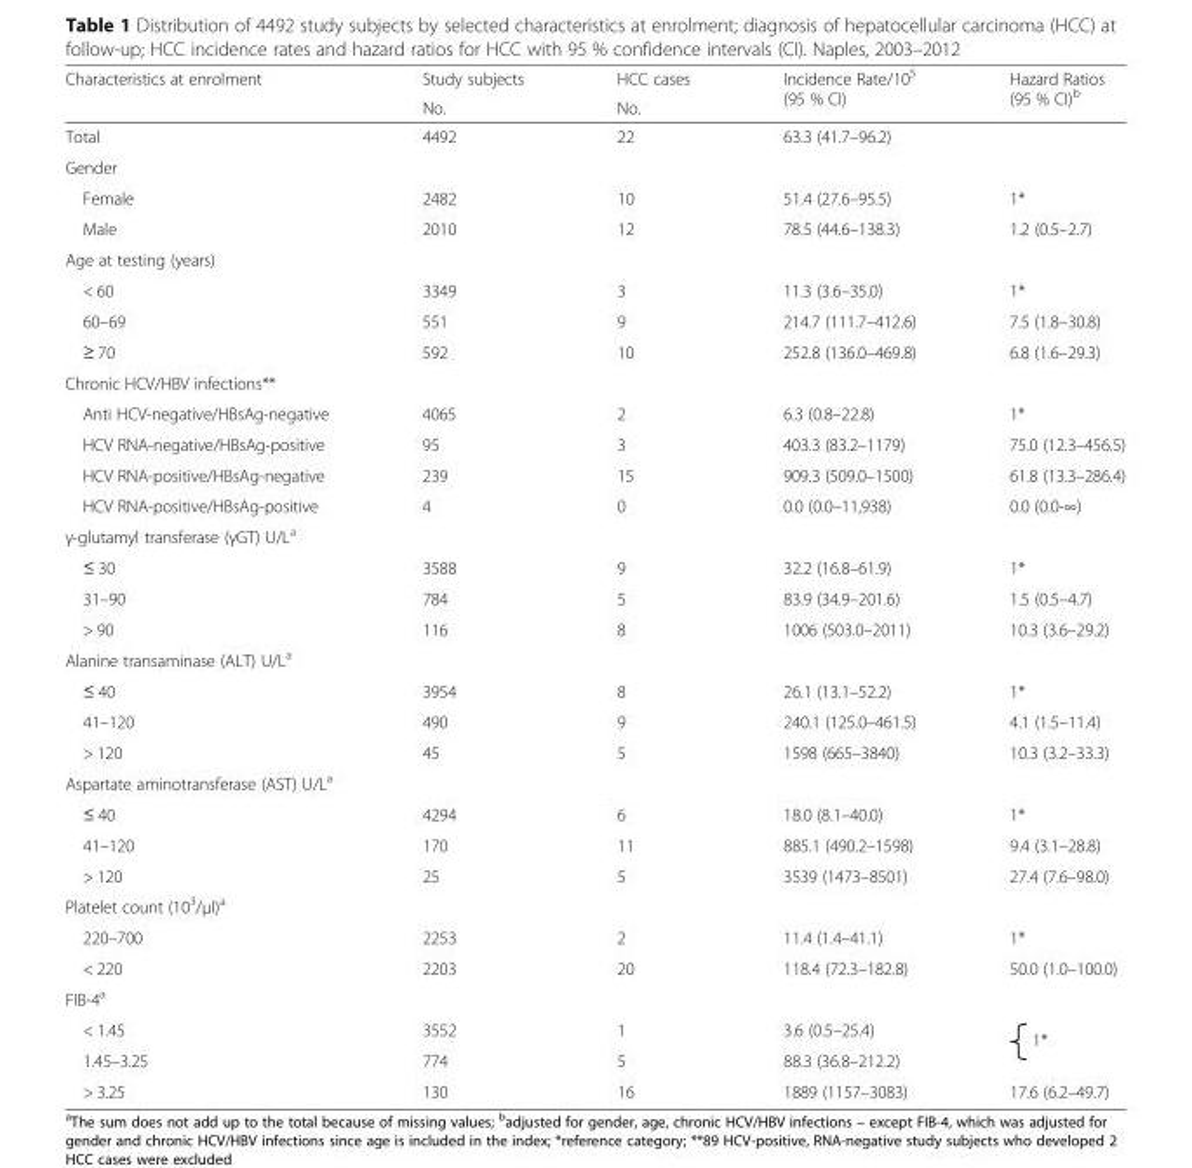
<table><thead><tr><td rowspan="2">Characteristics at enrolment</td><td rowspan="2">Study subjects No.</td><td rowspan="2">HCC cases No.</td><td rowspan="2">Incidence Rate/10<sup>5</sup> (95 % CI)</td><td rowspan="2">Hazard Ratios (95 % CI)<sup>b</sup></td></tr><tr></tr></thead><tbody><tr><td>Total</td><td>4492</td><td>22</td><td>63.3 (41.7–96.2)</td><td></td></tr><tr><td colspan="5">Gender</td></tr><tr><td>Female</td><td>2482</td><td>10</td><td>51.4 (27.6–95.5)</td><td>1*</td></tr><tr><td>Male</td><td>2010</td><td>12</td><td>78.5 (44.6–138.3)</td><td>1.2 (0.5–2.7)</td></tr><tr><td colspan="5">Age at testing (years)</td></tr><tr><td>&lt; 60</td><td>3349</td><td>3</td><td>11.3 (3.6–35.0)</td><td>1*</td></tr><tr><td>60–69</td><td>551</td><td>9</td><td>214.7 (111.7–412.6)</td><td>7.5 (1.8–30.8)</td></tr><tr><td>≥ 70</td><td>592</td><td>10</td><td>252.8 (136.0–469.8)</td><td>6.8 (1.6–29.3)</td></tr><tr><td colspan="5">Chronic HCV/HBV infections**</td></tr><tr><td>Anti HCV-negative/HBsAg-negative</td><td>4065</td><td>2</td><td>6.3 (0.8–22.8)</td><td>1*</td></tr><tr><td>HCV RNA-negative/HBsAg-positive</td><td>95</td><td>3</td><td>403.3 (83.2–1179)</td><td>75.0 (12.3–456.5)</td></tr><tr><td>HCV RNA-positive/HBsAg-negative</td><td>239</td><td>15</td><td>909.3 (509.0–1500)</td><td>61.8 (13.3–286.4)</td></tr><tr><td>HCV RNA-positive/HBsAg-positive</td><td>4</td><td>0</td><td>0.0 (0.0–11,938)</td><td>0.0 (0.0-∞)</td></tr><tr><td colspan="5">γ-glutamyl transferase (γGT) U/L<sup>a</sup></td></tr><tr><td>≤ 30</td><td>3588</td><td>9</td><td>32.2 (16.8–61.9)</td><td>1*</td></tr><tr><td>31–90</td><td>784</td><td>5</td><td>83.9 (34.9–201.6)</td><td>1.5 (0.5–4.7)</td></tr><tr><td>&gt; 90</td><td>116</td><td>8</td><td>1006 (503.0–2011)</td><td>10.3 (3.6–29.2)</td></tr><tr><td colspan="5">Alanine transaminase (ALT) U/L<sup>a</sup></td></tr><tr><td>≤ 40</td><td>3954</td><td>8</td><td>26.1 (13.1–52.2)</td><td>1*</td></tr><tr><td>41–120</td><td>490</td><td>9</td><td>240.1 (125.0–461.5)</td><td>4.1 (1.5–11.4)</td></tr><tr><td>&gt; 120</td><td>45</td><td>5</td><td>1598 (665–3840)</td><td>10.3 (3.2–33.3)</td></tr><tr><td colspan="5">Aspartate aminotransferase (AST) U/L<sup>a</sup></td></tr><tr><td>≤ 40</td><td>4294</td><td>6</td><td>18.0 (8.1–40.0)</td><td>1*</td></tr><tr><td>41–120</td><td>170</td><td>11</td><td>885.1 (490.2–1598)</td><td>9.4 (3.1–28.8)</td></tr><tr><td>&gt; 120</td><td>25</td><td>5</td><td>3539 (1473–8501)</td><td>27.4 (7.6–98.0)</td></tr><tr><td colspan="5">Platelet count (10<sup>3</sup>/μl)<sup>a</sup></td></tr><tr><td>220–700</td><td>2253</td><td>2</td><td>11.4 (1.4–41.1)</td><td>1*</td></tr><tr><td>&lt; 220</td><td>2203</td><td>20</td><td>118.4 (72.3–182.8)</td><td>50.0 (1.0–100.0)</td></tr><tr><td colspan="5">FIB-4<sup>a</sup></td></tr><tr><td>&lt; 1.45</td><td>3552</td><td>1</td><td>3.6 (0.5–25.4)</td><td rowspan="2">1*</td></tr><tr><td>1.45–3.25</td><td>774</td><td>5</td><td>88.3 (36.8–212.2)</td></tr><tr><td>&gt; 3.25</td><td>130</td><td>16</td><td>1889 (1157–3083)</td><td>17.6 (6.2–49.7)</td></tr></tbody></table>